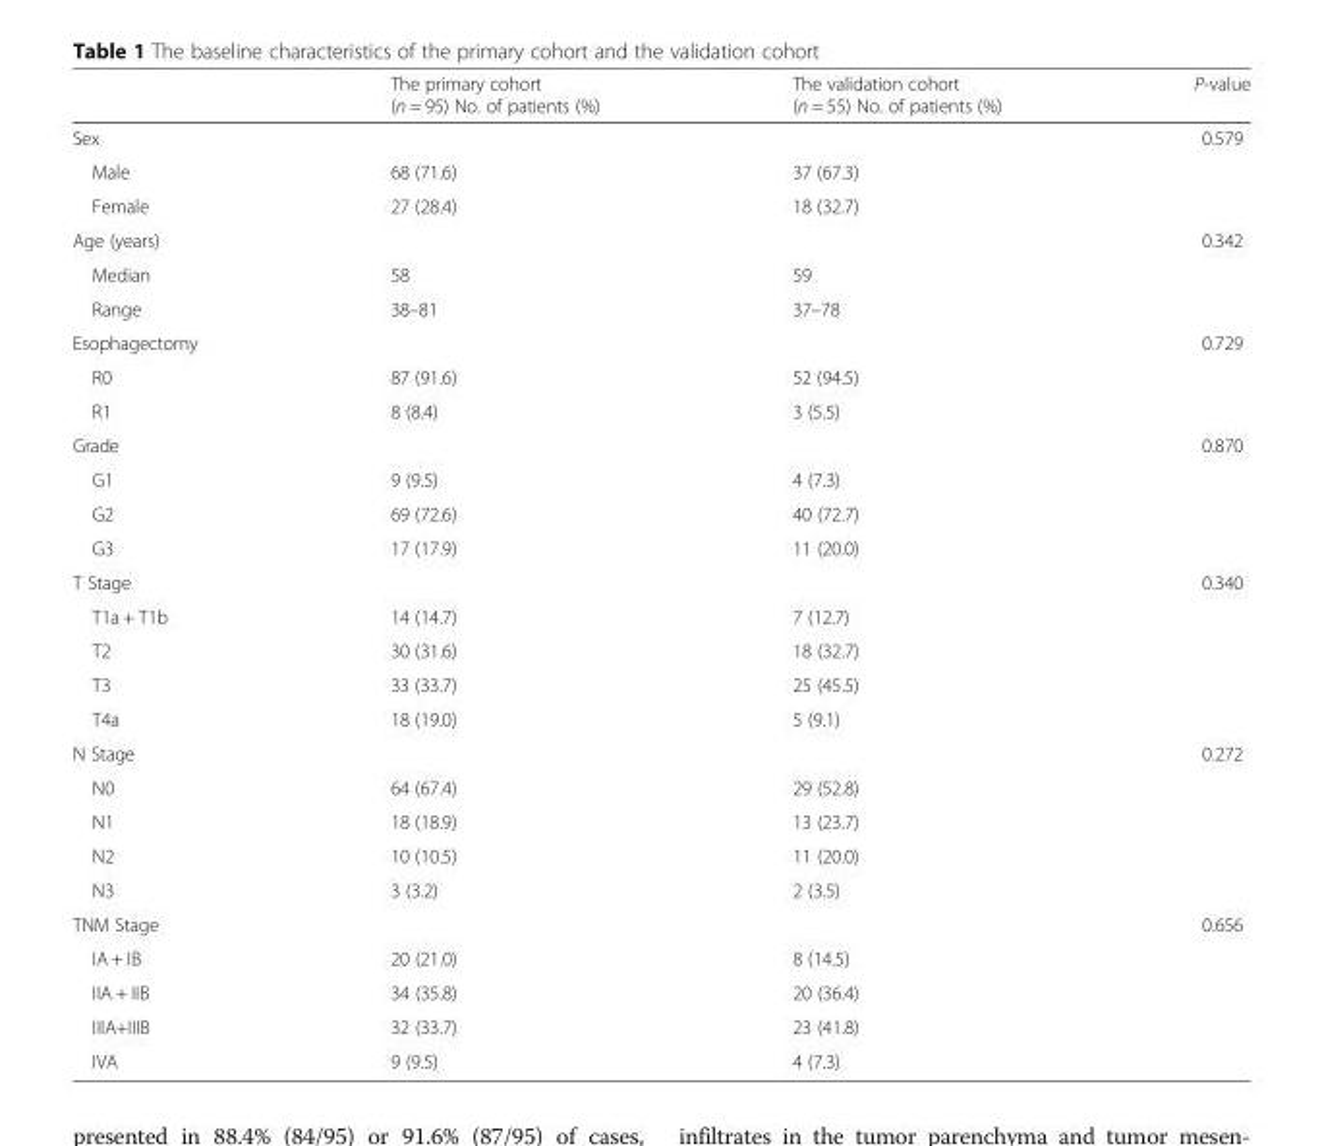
<table><thead><tr><td></td><td>The primary cohort (n = 95) No. of patients (%)</td><td>The validation cohort (n = 55) No. of patients (%)</td><td>P-value</td></tr></thead><tbody><tr><td>Sex</td><td></td><td></td><td>0.579</td></tr><tr><td>Male</td><td>68 (71.6)</td><td>37 (67.3)</td><td></td></tr><tr><td>Female</td><td>27 (28.4)</td><td>18 (32.7)</td><td></td></tr><tr><td>Age (years)</td><td></td><td></td><td>0.342</td></tr><tr><td>Median</td><td>58</td><td>59</td><td></td></tr><tr><td>Range</td><td>38–81</td><td>37–78</td><td></td></tr><tr><td>Esophagectomy</td><td></td><td></td><td>0.729</td></tr><tr><td>R0</td><td>87 (91.6)</td><td>52 (94.5)</td><td></td></tr><tr><td>R1</td><td>8 (8.4)</td><td>3 (5.5)</td><td></td></tr><tr><td>Grade</td><td></td><td></td><td>0.870</td></tr><tr><td>G1</td><td>9 (9.5)</td><td>4 (7.3)</td><td></td></tr><tr><td>G2</td><td>69 (72.6)</td><td>40 (72.7)</td><td></td></tr><tr><td>G3</td><td>17 (17.9)</td><td>11 (20.0)</td><td></td></tr><tr><td>T Stage</td><td></td><td></td><td>0.340</td></tr><tr><td>T1a + T1b</td><td>14 (14.7)</td><td>7 (12.7)</td><td></td></tr><tr><td>T2</td><td>30 (31.6)</td><td>18 (32.7)</td><td></td></tr><tr><td>T3</td><td>33 (33.7)</td><td>25 (45.5)</td><td></td></tr><tr><td>T4a</td><td>18 (19.0)</td><td>5 (9.1)</td><td></td></tr><tr><td>N Stage</td><td></td><td></td><td>0.272</td></tr><tr><td>N0</td><td>64 (67.4)</td><td>29 (52.8)</td><td></td></tr><tr><td>N1</td><td>18 (18.9)</td><td>13 (23.7)</td><td></td></tr><tr><td>N2</td><td>10 (10.5)</td><td>11 (20.0)</td><td></td></tr><tr><td>N3</td><td>3 (3.2)</td><td>2 (3.5)</td><td></td></tr><tr><td>TNM Stage</td><td></td><td></td><td>0.656</td></tr><tr><td>IA + IB</td><td>20 (21.0)</td><td>8 (14.5)</td><td></td></tr><tr><td>IIA + IIB</td><td>34 (35.8)</td><td>20 (36.4)</td><td></td></tr><tr><td>IIIA+IIIB</td><td>32 (33.7)</td><td>23 (41.8)</td><td></td></tr><tr><td>IVA</td><td>9 (9.5)</td><td>4 (7.3)</td><td></td></tr></tbody></table>